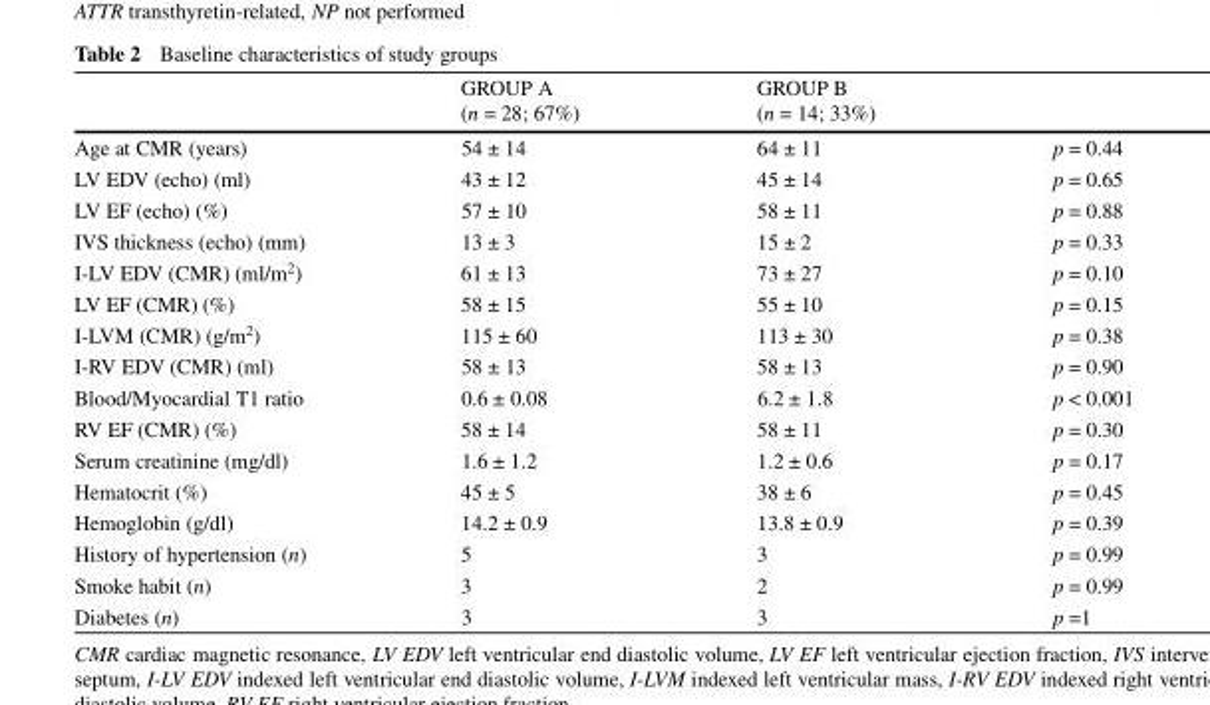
<table><thead><tr><td></td><td>GROUP A (n = 28; 67%)</td><td>GROUP B (n = 14; 33%)</td><td></td></tr></thead><tbody><tr><td>Age at CMR (years)</td><td>54 ± 14</td><td>64 ± 11</td><td>p = 0.44</td></tr><tr><td>LV EDV (echo) (ml)</td><td>43 ± 12</td><td>45 ± 14</td><td>p = 0.65</td></tr><tr><td>LV EF (echo) (%)</td><td>57 ± 10</td><td>58 ± 11</td><td>p = 0.88</td></tr><tr><td>IVS thickness (echo) (mm)</td><td>13 ± 3</td><td>15 ± 2</td><td>p = 0.33</td></tr><tr><td>I-LV EDV (CMR) (ml/m<sup>2</sup>)</td><td>61 ± 13</td><td>73 ± 27</td><td>p = 0.10</td></tr><tr><td>LV EF (CMR) (%)</td><td>58 ± 15</td><td>55 ± 10</td><td>p = 0.15</td></tr><tr><td>I-LVM (CMR) (g/m<sup>2</sup>)</td><td>115 ± 60</td><td>113 ± 30</td><td>p = 0.38</td></tr><tr><td>I-RV EDV (CMR) (ml)</td><td>58 ± 13</td><td>58 ± 13</td><td>p = 0.90</td></tr><tr><td>Blood/Myocardial T1 ratio</td><td>0.6 ± 0.08</td><td>6.2 ± 1.8</td><td>p &lt; 0.001</td></tr><tr><td>RV EF (CMR) (%)</td><td>58 ± 14</td><td>58 ± 11</td><td>p = 0.30</td></tr><tr><td>Serum creatinine (mg/dl)</td><td>1.6 ± 1.2</td><td>1.2 ± 0.6</td><td>p = 0.17</td></tr><tr><td>Hematocrit (%)</td><td>45 ± 5</td><td>38 ± 6</td><td>p = 0.45</td></tr><tr><td>Hemoglobin (g/dl)</td><td>14.2 ± 0.9</td><td>13.8 ± 0.9</td><td>p = 0.39</td></tr><tr><td>History of hypertension (n)</td><td>5</td><td>3</td><td>p = 0.99</td></tr><tr><td>Smoke habit (n)</td><td>3</td><td>2</td><td>p = 0.99</td></tr><tr><td>Diabetes (n)</td><td>3</td><td>3</td><td>p =1</td></tr></tbody></table>